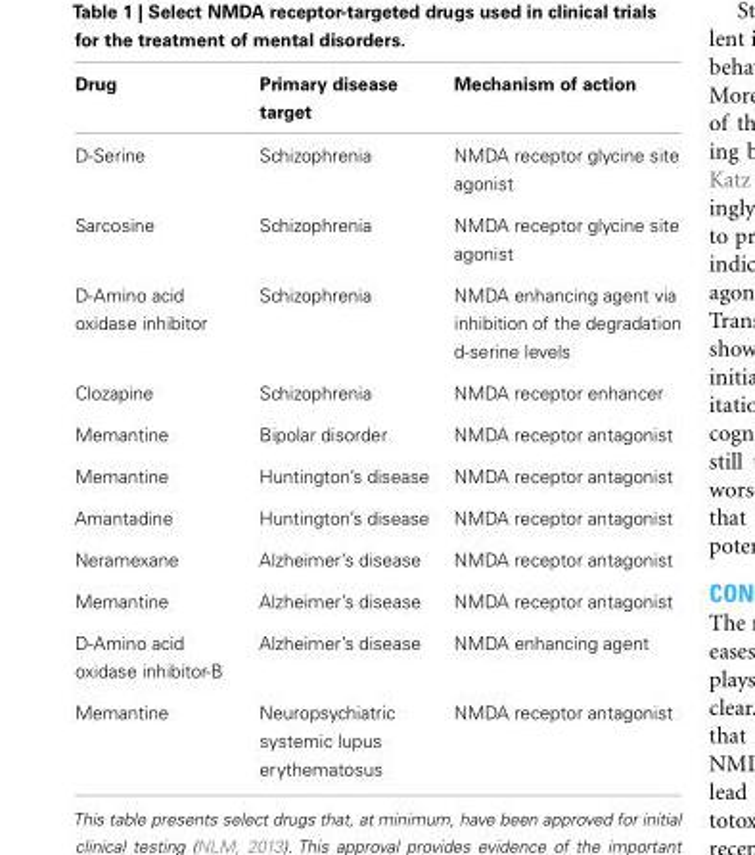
<table><thead><tr><td>Drug</td><td>Primary disease target</td><td>Mechanism of action</td></tr></thead><tbody><tr><td>D-Serine</td><td>Schizophrenia</td><td>NMDA receptor glycine site agonist</td></tr><tr><td>Sarcosine</td><td>Schizophrenia</td><td>NMDA receptor glycine site agonist</td></tr><tr><td>D-Amino acid oxidase inhibitor</td><td>Schizophrenia</td><td>NMDA enhancing agent via inhibition of the degradation d-serine levels</td></tr><tr><td>Clozapine</td><td>Schizophrenia</td><td>NMDA receptor enhancer</td></tr><tr><td>Memantine</td><td>Bipolar disorder</td><td>NMDA receptor antagonist</td></tr><tr><td>Memantine</td><td>Huntington’s disease</td><td>NMDA receptor antagonist</td></tr><tr><td>Amantadine</td><td>Huntington’s disease</td><td>NMDA receptor antagonist</td></tr><tr><td>Neramexane</td><td>Alzheimer’s disease</td><td>NMDA receptor antagonist</td></tr><tr><td>Memantine</td><td>Alzheimer’s disease</td><td>NMDA receptor antagonist</td></tr><tr><td>D-Amino acid oxidase inhibitor-B</td><td>Alzheimer’s disease</td><td>NMDA enhancing agent</td></tr><tr><td>Memantine</td><td>Neuropsychiatric systemic lupus erythematosus</td><td>NMDA receptor antagonist</td></tr></tbody></table>